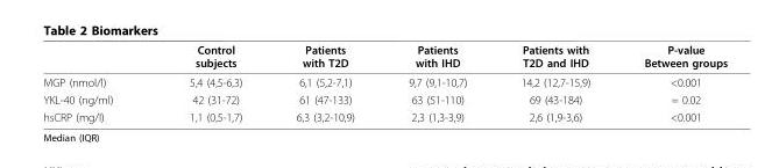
<table><thead><tr><td></td><td>Control subjects</td><td>Patients with T2D</td><td>Patients with IHD</td><td>Patients with T2D and IHD</td><td>P-value Between groups</td></tr></thead><tbody><tr><td>MGP (nmol/l)</td><td>5,4 (4,5-6,3)</td><td>6,1 (5,2-7,1)</td><td>9,7 (9,1-10,7)</td><td>14,2 (12,7-15,9)</td><td>&lt;0.001</td></tr><tr><td>YKL-40 (ng/ml)</td><td>42 (31-72)</td><td>61 (47-133)</td><td>63 (51-110)</td><td>69 (43-184)</td><td>= 0.02</td></tr><tr><td>hsCRP (mg/l)</td><td>1,1 (0,5-1,7)</td><td>6,3 (3,2-10,9)</td><td>2,3 (1,3-3,9)</td><td>2,6 (1,9-3,6)</td><td>&lt;0.001</td></tr></tbody></table>